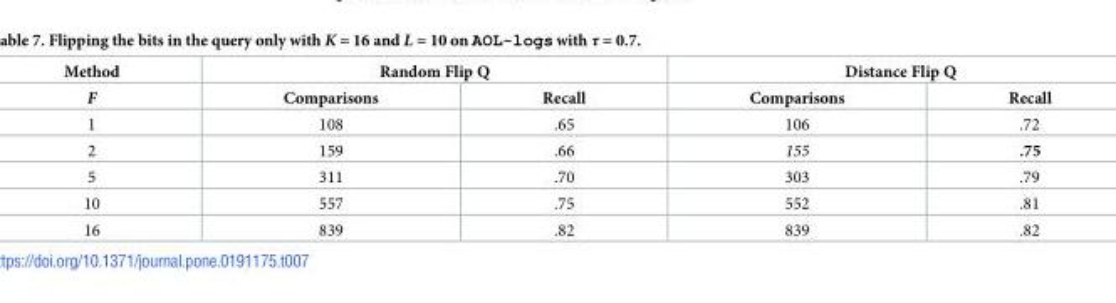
<table><thead><tr><td rowspan="2">Method F</td><td colspan="2">Random Flip Q</td><td colspan="2">Distance Flip Q</td></tr><tr><td>Comparisons</td><td>Recall</td><td>Comparisons</td><td>Recall</td></tr></thead><tbody><tr><td>1</td><td>108</td><td>.65</td><td>106</td><td>.72</td></tr><tr><td>2</td><td>159</td><td>.66</td><td>155</td><td>.75</td></tr><tr><td>5</td><td>311</td><td>.70</td><td>303</td><td>.79</td></tr><tr><td>10</td><td>557</td><td>.75</td><td>552</td><td>.81</td></tr><tr><td>16</td><td>839</td><td>.82</td><td>839</td><td>.82</td></tr></tbody></table>